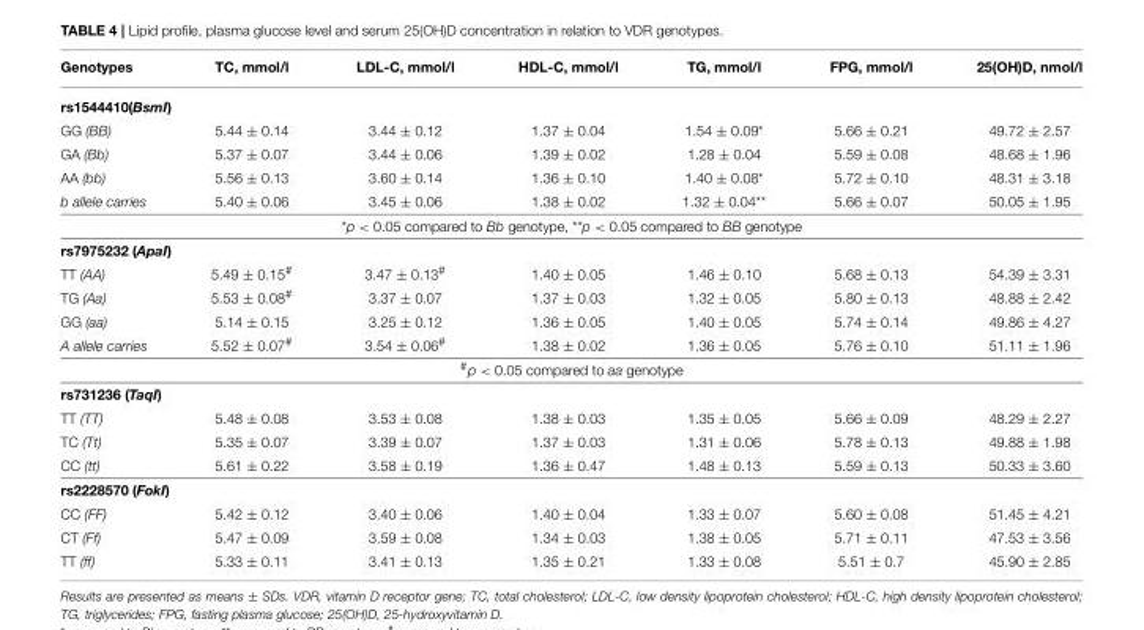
<table><thead><tr><td>Genotypes</td><td>TC, mmol/l</td><td>LDL-C, mmol/l</td><td>HDL-C, mmol/l</td><td>TG, mmol/l</td><td>FPG, mmol/l</td><td>25(OH)D, nmol/l</td></tr></thead><tbody><tr><td colspan="7">rs1544410(BsmI)</td></tr><tr><td>GG (BB)</td><td>5.44 ± 0.14</td><td>3.44 ± 0.12</td><td>1.37 ± 0.04</td><td>1.54 ± 0.09*</td><td>5.66 ± 0.21</td><td>49.72 ± 2.57</td></tr><tr><td>GA (Bb)</td><td>5.37 ± 0.07</td><td>3.44 ± 0.06</td><td>1.39 ± 0.02</td><td>1.28 ± 0.04</td><td>5.59 ± 0.08</td><td>48.68 ± 1.96</td></tr><tr><td>AA (bb)</td><td>5.56 ± 0.13</td><td>3.60 ± 0.14</td><td>1.36 ± 0.10</td><td>1.40 ± 0.08*</td><td>5.72 ± 0.10</td><td>48.31 ± 3.18</td></tr><tr><td>b allele carries</td><td>5.40 ± 0.06</td><td>3.45 ± 0.06</td><td>1.38 ± 0.02</td><td>1.32 ± 0.04**</td><td>5.66 ± 0.07</td><td>50.05 ± 1.95</td></tr><tr><td colspan="7">*p &lt; 0.05 compared to Bb genotype, **p &lt; 0.05 compared to BB genotype</td></tr><tr><td colspan="7">rs7975232 (ApaI)</td></tr><tr><td>TT (AA)</td><td>5.49 ± 0.15<sup>#</sup></td><td>3.47 ± 0.13<sup>#</sup></td><td>1.40 ± 0.05</td><td>1.46 ± 0.10</td><td>5.68 ± 0.13</td><td>54.39 ± 3.31</td></tr><tr><td>TG (Aa)</td><td>5.53 ± 0.08<sup>#</sup></td><td>3.37 ± 0.07</td><td>1.37 ± 0.03</td><td>1.32 ± 0.05</td><td>5.80 ± 0.13</td><td>48.88 ± 2.42</td></tr><tr><td>GG (aa)</td><td>5.14 ± 0.15</td><td>3.25 ± 0.12</td><td>1.36 ± 0.05</td><td>1.40 ± 0.05</td><td>5.74 ± 0.14</td><td>49.86 ± 4.27</td></tr><tr><td>A allele carries</td><td>5.52 ± 0.07<sup>#</sup></td><td>3.54 ± 0.06<sup>#</sup></td><td>1.38 ± 0.02</td><td>1.36 ± 0.05</td><td>5.76 ± 0.10</td><td>51.11 ± 1.96</td></tr><tr><td colspan="7"><sup>#</sup>p &lt; 0.05 compared to aa genotype</td></tr><tr><td colspan="7">rs731236 (TaqI)</td></tr><tr><td>TT (TT)</td><td>5.48 ± 0.08</td><td>3.53 ± 0.08</td><td>1.38 ± 0.03</td><td>1.35 ± 0.05</td><td>5.66 ± 0.09</td><td>48.29 ± 2.27</td></tr><tr><td>TC (Tt)</td><td>5.35 ± 0.07</td><td>3.39 ± 0.07</td><td>1.37 ± 0.03</td><td>1.31 ± 0.06</td><td>5.78 ± 0.13</td><td>49.88 ± 1.98</td></tr><tr><td>CC (tt)</td><td>5.61 ± 0.22</td><td>3.58 ± 0.19</td><td>1.36 ± 0.47</td><td>1.48 ± 0.13</td><td>5.59 ± 0.13</td><td>50.33 ± 3.60</td></tr><tr><td colspan="7">rs2228570 (FokI)</td></tr><tr><td>CC (FF)</td><td>5.42 ± 0.12</td><td>3.40 ± 0.06</td><td>1.40 ± 0.04</td><td>1.33 ± 0.07</td><td>5.60 ± 0.08</td><td>51.45 ± 4.21</td></tr><tr><td>CT (Ff)</td><td>5.47 ± 0.09</td><td>3.59 ± 0.08</td><td>1.34 ± 0.03</td><td>1.38 ± 0.05</td><td>5.71 ± 0.11</td><td>47.53 ± 3.56</td></tr><tr><td>TT (ff)</td><td>5.33 ± 0.11</td><td>3.41 ± 0.13</td><td>1.35 ± 0.21</td><td>1.33 ± 0.08</td><td>5.51 ± 0.7</td><td>45.90 ± 2.85</td></tr></tbody></table>